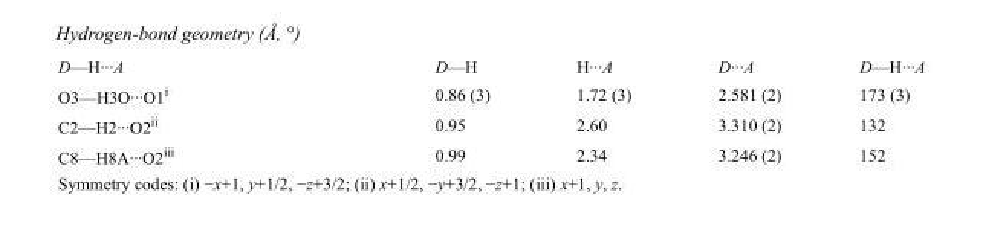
<table><tbody><tr><td>D—H···A</td><td>D—H</td><td>H···A</td><td>D···A</td><td>D—H···A</td></tr><tr><td>O3—H3O···O1<sup>i</sup></td><td>0.86 (3)</td><td>1.72 (3)</td><td>2.581 (2)</td><td>173 (3)</td></tr><tr><td>C2—H2···O2<sup>ii</sup></td><td>0.95</td><td>2.60</td><td>3.310 (2)</td><td>132</td></tr><tr><td>C8—H8A···O2<sup>iii</sup></td><td>0.99</td><td>2.34</td><td>3.246 (2)</td><td>152</td></tr></tbody></table>